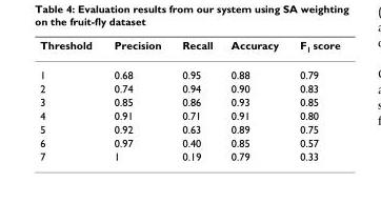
<table><thead><tr><td>Threshold</td><td>Precision</td><td>Recall</td><td>Accuracy</td><td>F<sub>1</sub> score</td></tr></thead><tbody><tr><td>1</td><td>0.68</td><td>0.95</td><td>0.88</td><td>0.79</td></tr><tr><td>2</td><td>0.74</td><td>0.94</td><td>0.90</td><td>0.83</td></tr><tr><td>3</td><td>0.85</td><td>0.86</td><td>0.93</td><td>0.85</td></tr><tr><td>4</td><td>0.91</td><td>0.71</td><td>0.91</td><td>0.80</td></tr><tr><td>5</td><td>0.92</td><td>0.63</td><td>0.89</td><td>0.75</td></tr><tr><td>6</td><td>0.97</td><td>0.40</td><td>0.85</td><td>0.57</td></tr><tr><td>7</td><td>1</td><td>0.19</td><td>0.79</td><td>0.33</td></tr></tbody></table>